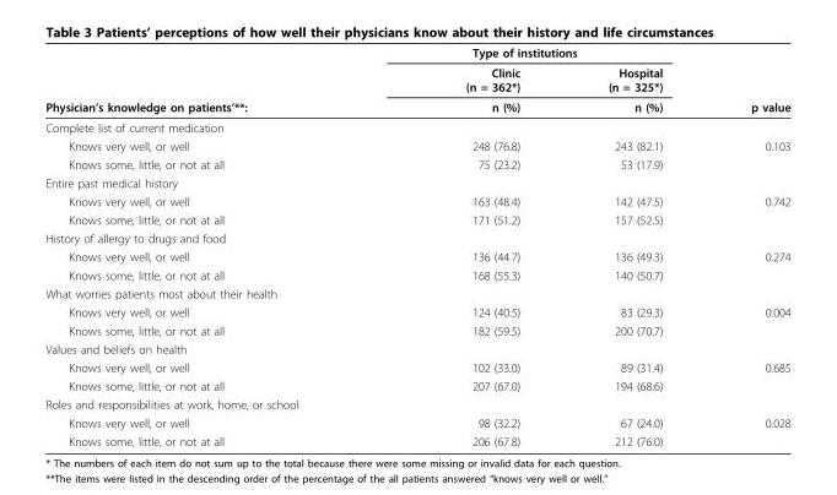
<table><thead><tr><td rowspan="3">Physician’s knowledge on patients’**:</td><td colspan="2">Type of institutions</td><td rowspan="3">p value</td></tr><tr><td rowspan="2">Clinic (n = 362*) n (%)</td><td rowspan="2">Hospital (n = 325*) n (%)</td></tr><tr></tr></thead><tbody><tr><td colspan="4">Complete list of current medication</td></tr><tr><td>Knows very well, or well</td><td>248 (76.8)</td><td>243 (82.1)</td><td>0.103</td></tr><tr><td>Knows some, little, or not at all</td><td>75 (23.2)</td><td>53 (17.9)</td><td></td></tr><tr><td colspan="4">Entire past medical history</td></tr><tr><td>Knows very well, or well</td><td>163 (48.4)</td><td>142 (47.5)</td><td>0.742</td></tr><tr><td>Knows some, little, or not at all</td><td>171 (51.2)</td><td>157 (52.5)</td><td></td></tr><tr><td colspan="4">History of allergy to drugs and food</td></tr><tr><td>Knows very well, or well</td><td>136 (44.7)</td><td>136 (49.3)</td><td>0.274</td></tr><tr><td>Knows some, little, or not at all</td><td>168 (55.3)</td><td>140 (50.7)</td><td></td></tr><tr><td colspan="4">What worries patients most about their health</td></tr><tr><td>Knows very well, or well</td><td>124 (40.5)</td><td>83 (29.3)</td><td>0.004</td></tr><tr><td>Knows some, little, or not at all</td><td>182 (59.5)</td><td>200 (70.7)</td><td></td></tr><tr><td colspan="4">Values and beliefs on health</td></tr><tr><td>Knows very well, or well</td><td>102 (33.0)</td><td>89 (31.4)</td><td>0.685</td></tr><tr><td>Knows some, little, or not at all</td><td>207 (67.0)</td><td>194 (68.6)</td><td></td></tr><tr><td colspan="4">Roles and responsibilities at work, home, or school</td></tr><tr><td>Knows very well, or well</td><td>98 (32.2)</td><td>67 (24.0)</td><td>0.028</td></tr><tr><td>Knows some, little, or not at all</td><td>206 (67.8)</td><td>212 (76.0)</td><td></td></tr></tbody></table>